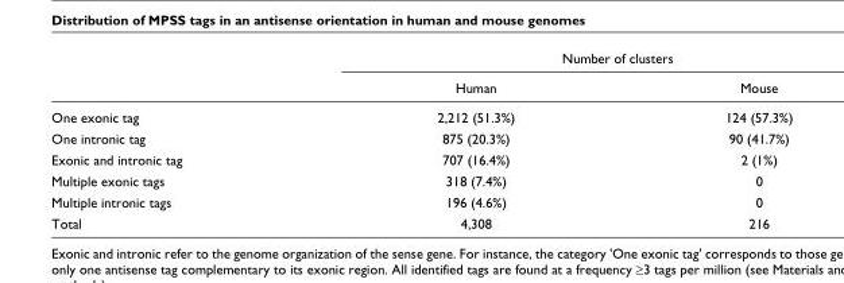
<table><thead><tr><td rowspan="2"></td><td colspan="2">Number of clusters</td></tr><tr><td>Human</td><td>Mouse</td></tr></thead><tbody><tr><td>One exonic tag</td><td>2,212 (51.3%)</td><td>124 (57.3%)</td></tr><tr><td>One intronic tag</td><td>875 (20.3%)</td><td>90 (41.7%)</td></tr><tr><td>Exonic and intronic tag</td><td>707 (16.4%)</td><td>2 (1%)</td></tr><tr><td>Multiple exonic tags</td><td>318 (7.4%)</td><td>0</td></tr><tr><td>Multiple intronic tags</td><td>196 (4.6%)</td><td>0</td></tr><tr><td>Total</td><td>4,308</td><td>216</td></tr></tbody></table>